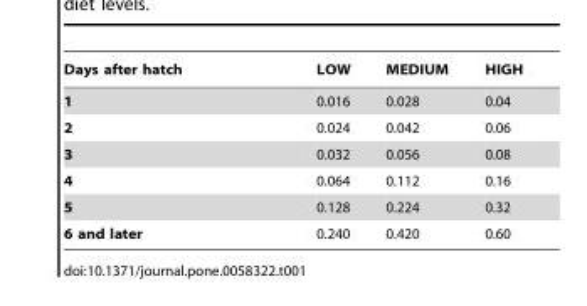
<table><thead><tr><td>Days after hatch</td><td>LOW</td><td>MEDIUM</td><td>HIGH</td></tr></thead><tbody><tr><td>1</td><td>0.016</td><td>0.028</td><td>0.04</td></tr><tr><td>2</td><td>0.024</td><td>0.042</td><td>0.06</td></tr><tr><td>3</td><td>0.032</td><td>0.056</td><td>0.08</td></tr><tr><td>4</td><td>0.064</td><td>0.112</td><td>0.16</td></tr><tr><td>5</td><td>0.128</td><td>0.224</td><td>0.32</td></tr><tr><td>6 and later</td><td>0.240</td><td>0.420</td><td>0.60</td></tr></tbody></table>